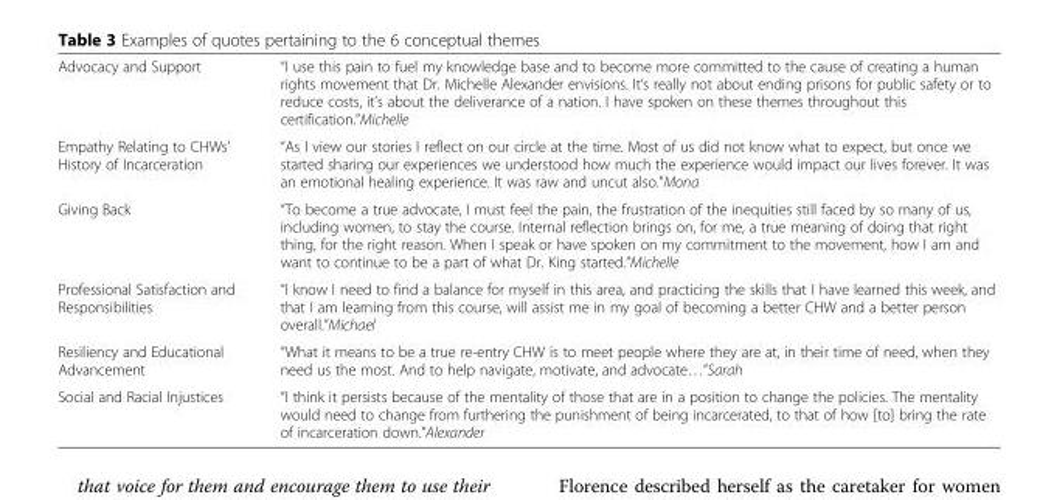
<table><tbody><tr><td>Advocacy and Support</td><td>“I use this pain to fuel my knowledge base and to become more committed to the cause of creating a human rights movement that Dr. Michelle Alexander envisions. It’s really not about ending prisons for public safety or to reduce costs, it’s about the deliverance of a nation. I have spoken on these themes throughout this certification.”Michelle</td></tr><tr><td>Empathy Relating to CHWs’ History of Incarceration</td><td>“As I view our stories I reflect on our circle at the time. Most of us did not know what to expect, but once we started sharing our experiences we understood how much the experience would impact our lives forever. It was an emotional healing experience. It was raw and uncut also.”Mona</td></tr><tr><td>Giving Back</td><td>“To become a true advocate, I must feel the pain, the frustration of the inequities still faced by so many of us, including women, to stay the course. Internal reflection brings on, for me, a true meaning of doing that right thing, for the right reason. When I speak or have spoken on my commitment to the movement, how I am and want to continue to be a part of what Dr. King started.”Michelle</td></tr><tr><td>Professional Satisfaction and Responsibilities</td><td>“I know I need to find a balance for myself in this area, and practicing the skills that I have learned this week, and that I am learning from this course, will assist me in my goal of becoming a better CHW and a better person overall.”Michael</td></tr><tr><td>Resiliency and Educational Advancement</td><td>“What it means to be a true re-entry CHW is to meet people where they are at, in their time of need, when they need us the most. And to help navigate, motivate, and advocate…”Sarah</td></tr><tr><td>Social and Racial Injustices</td><td>“I think it persists because of the mentality of those that are in a position to change the policies. The mentality would need to change from furthering the punishment of being incarcerated, to that of how [to] bring the rate of incarceration down.”Alexander</td></tr></tbody></table>